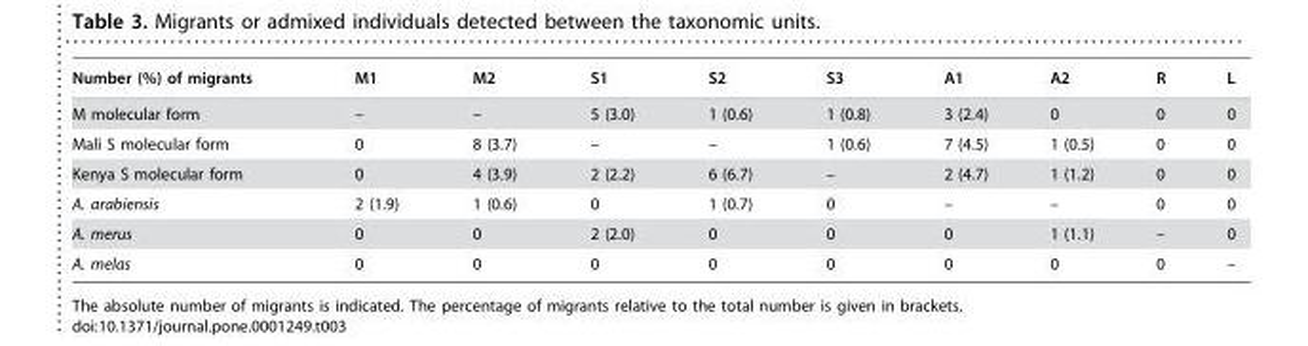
<table><thead><tr><td>Number (%) of migrants</td><td>M1</td><td>M2</td><td>S1</td><td>S2</td><td>S3</td><td>A1</td><td>A2</td><td>R</td><td>L</td></tr></thead><tbody><tr><td>M molecular form</td><td>–</td><td>–</td><td>5 (3.0)</td><td>1 (0.6)</td><td>1 (0.8)</td><td>3 (2.4)</td><td>0</td><td>0</td><td>0</td></tr><tr><td>Mali S molecular form</td><td>0</td><td>8 (3.7)</td><td>–</td><td>–</td><td>1 (0.6)</td><td>7 (4.5)</td><td>1 (0.5)</td><td>0</td><td>0</td></tr><tr><td>Kenya S molecular form</td><td>0</td><td>4 (3.9)</td><td>2 (2.2)</td><td>6 (6.7)</td><td>–</td><td>2 (4.7)</td><td>1 (1.2)</td><td>0</td><td>0</td></tr><tr><td>A. arabiensis</td><td>2 (1.9)</td><td>1 (0.6)</td><td>0</td><td>1 (0.7)</td><td>0</td><td>–</td><td>–</td><td>0</td><td>0</td></tr><tr><td>A. merus</td><td>0</td><td>0</td><td>2 (2.0)</td><td>0</td><td>0</td><td>0</td><td>1 (1.1)</td><td>–</td><td>0</td></tr><tr><td>A. melas</td><td>0</td><td>0</td><td>0</td><td>0</td><td>0</td><td>0</td><td>0</td><td>0</td><td>–</td></tr></tbody></table>